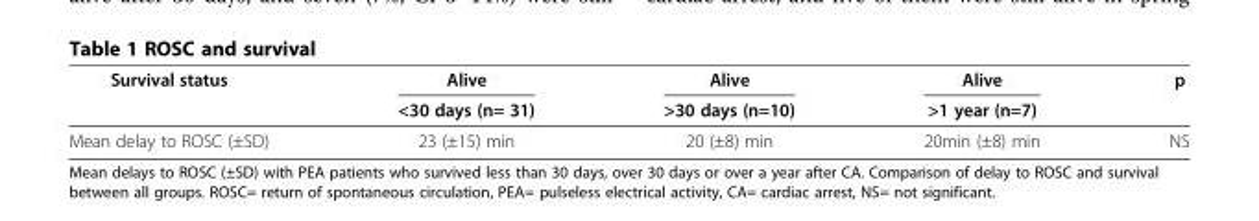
<table><thead><tr><td rowspan="2">Survival status</td><td rowspan="2">Alive &lt;30 days (n= 31)</td><td rowspan="2">Alive &gt;30 days (n=10)</td><td rowspan="2">Alive &gt;1 year (n=7)</td><td rowspan="2">p</td></tr><tr></tr></thead><tbody><tr><td>Mean delay to ROSC (±SD)</td><td>23 (±15) min</td><td>20 (±8) min</td><td>20min (±8) min</td><td>NS</td></tr></tbody></table>